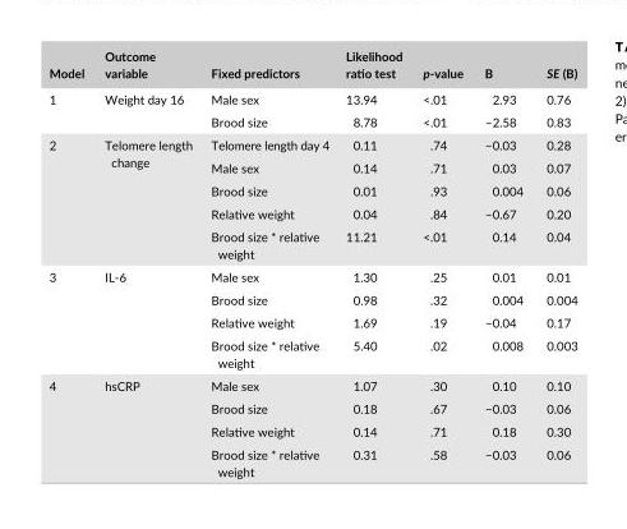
<table><thead><tr><td>Model</td><td>Outcome variable</td><td>Fixed predictors</td><td>Likelihood ratio test</td><td>p- value</td><td>B</td><td>SE (B)</td></tr></thead><tbody><tr><td rowspan="2">1</td><td rowspan="2">Weight day 16</td><td>Male sex</td><td>13.94</td><td>&lt;.01</td><td>2.93</td><td>0.76</td></tr><tr><td>Brood size</td><td>8.78</td><td>&lt;.01</td><td>−2.58</td><td>0.83</td></tr><tr><td rowspan="5">2</td><td rowspan="5">Telomere length change</td><td>Telomere length day 4</td><td>0.11</td><td>.74</td><td>−0.03</td><td>0.28</td></tr><tr><td>Male sex</td><td>0.14</td><td>.71</td><td>0.03</td><td>0.07</td></tr><tr><td>Brood size</td><td>0.01</td><td>.93</td><td>0.004</td><td>0.06</td></tr><tr><td>Relative weight</td><td>0.04</td><td>.84</td><td>−0.67</td><td>0.20</td></tr><tr><td>Brood size * relative weight</td><td>11.21</td><td>&lt;.01</td><td>0.14</td><td>0.04</td></tr><tr><td rowspan="4">3</td><td rowspan="4">IL- 6</td><td>Male sex</td><td>1.30</td><td>.25</td><td>0.01</td><td>0.01</td></tr><tr><td>Brood size</td><td>0.98</td><td>.32</td><td>0.004</td><td>0.004</td></tr><tr><td>Relative weight</td><td>1.69</td><td>.19</td><td>−0.04</td><td>0.17</td></tr><tr><td>Brood size * relative weight</td><td>5.40</td><td>.02</td><td>0.008</td><td>0.003</td></tr><tr><td rowspan="4">4</td><td rowspan="4">hsCRP</td><td>Male sex</td><td>1.07</td><td>.30</td><td>0.10</td><td>0.10</td></tr><tr><td>Brood size</td><td>0.18</td><td>.67</td><td>−0.03</td><td>0.06</td></tr><tr><td>Relative weight</td><td>0.14</td><td>.71</td><td>0.18</td><td>0.30</td></tr><tr><td>Brood size * relative weight</td><td>0.31</td><td>.58</td><td>−0.03</td><td>0.06</td></tr></tbody></table>